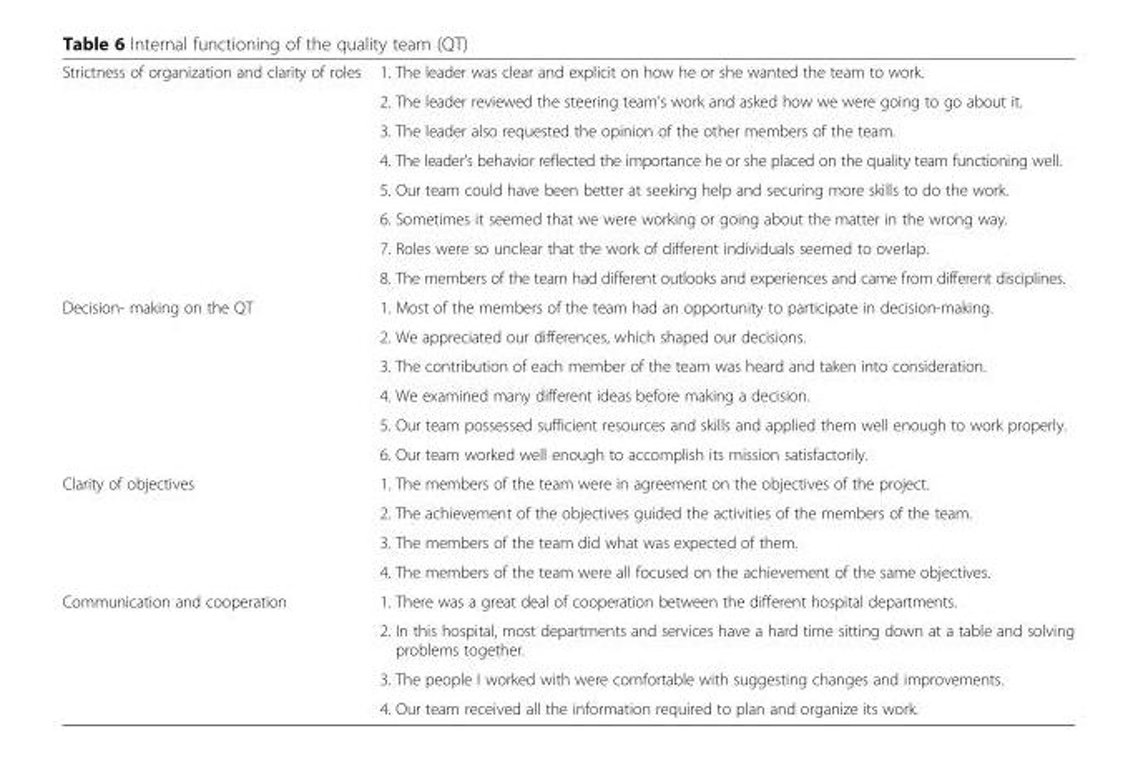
<table><tbody><tr><td rowspan="8">Strictness of organization and clarity of roles</td><td>1. The leader was clear and explicit on how he or she wanted the team to work.</td></tr><tr><td>2. The leader reviewed the steering team’s work and asked how we were going to go about it.</td></tr><tr><td>3. The leader also requested the opinion of the other members of the team.</td></tr><tr><td>4. The leader’s behavior reflected the importance he or she placed on the quality team functioning well.</td></tr><tr><td>5. Our team could have been better at seeking help and securing more skills to do the work.</td></tr><tr><td>6. Sometimes it seemed that we were working or going about the matter in the wrong way.</td></tr><tr><td>7. Roles were so unclear that the work of different individuals seemed to overlap.</td></tr><tr><td>8. The members of the team had different outlooks and experiences and came from different disciplines.</td></tr><tr><td rowspan="6">Decision- making on the QT</td><td>1. Most of the members of the team had an opportunity to participate in decision-making.</td></tr><tr><td>2. We appreciated our differences, which shaped our decisions.</td></tr><tr><td>3. The contribution of each member of the team was heard and taken into consideration.</td></tr><tr><td>4. We examined many different ideas before making a decision.</td></tr><tr><td>5. Our team possessed sufficient resources and skills and applied them well enough to work properly.</td></tr><tr><td>6. Our team worked well enough to accomplish its mission satisfactorily.</td></tr><tr><td rowspan="4">Clarity of objectives</td><td>1. The members of the team were in agreement on the objectives of the project.</td></tr><tr><td>2. The achievement of the objectives guided the activities of the members of the team.</td></tr><tr><td>3. The members of the team did what was expected of them.</td></tr><tr><td>4. The members of the team were all focused on the achievement of the same objectives.</td></tr><tr><td rowspan="4">Communication and cooperation</td><td>1. There was a great deal of cooperation between the different hospital departments.</td></tr><tr><td>2. In this hospital, most departments and services have a hard time sitting down at a table and solving problems together.</td></tr><tr><td>3. The people I worked with were comfortable with suggesting changes and improvements.</td></tr><tr><td>4. Our team received all the information required to plan and organize its work.</td></tr></tbody></table>